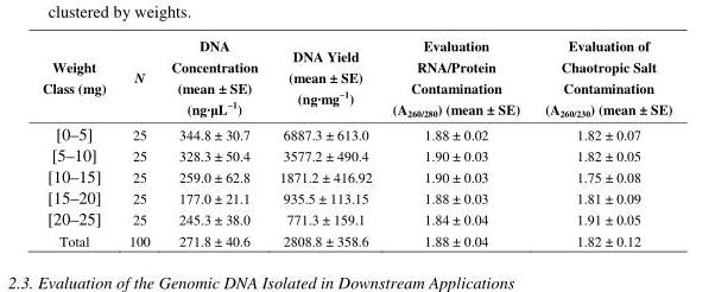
<table><thead><tr><td>Weight Class (mg)</td><td>N</td><td>DNA Concentration (mean ± SE) (ng·µL<sup>−1</sup>)</td><td>DNA Yield (mean ± SE) (ng·mg<sup>−1</sup>)</td><td>Evaluation RNA/Protein Contamination (A<sub>260/280</sub>) (mean ± SE)</td><td>Evaluation of Chaotropic Salt Contamination (A<sub>260/230</sub>) (mean ± SE)</td></tr></thead><tbody><tr><td>[0–5]</td><td>25</td><td>344.8 ± 30.7</td><td>6887.3 ± 613.0</td><td>1.88 ± 0.02</td><td>1.82 ± 0.07</td></tr><tr><td>[5–10]</td><td>25</td><td>328.3 ± 50.4</td><td>3577.2 ± 490.4</td><td>1.90 ± 0.03</td><td>1.82 ± 0.05</td></tr><tr><td>[10–15]</td><td>25</td><td>259.0 ± 62.8</td><td>1871.2 ± 416.92</td><td>1.90 ± 0.03</td><td>1.75 ± 0.08</td></tr><tr><td>[15–20]</td><td>25</td><td>177.0 ± 21.1</td><td>935.5 ± 113.15</td><td>1.88 ± 0.03</td><td>1.81 ± 0.09</td></tr><tr><td>[20–25]</td><td>25</td><td>245.3 ± 38.0</td><td>771.3 ± 159.1</td><td>1.84 ± 0.04</td><td>1.91 ± 0.05</td></tr><tr><td>Total</td><td>100</td><td>271.8 ± 40.6</td><td>2808.8 ± 358.6</td><td>1.88 ± 0.04</td><td>1.82 ± 0.12</td></tr></tbody></table>